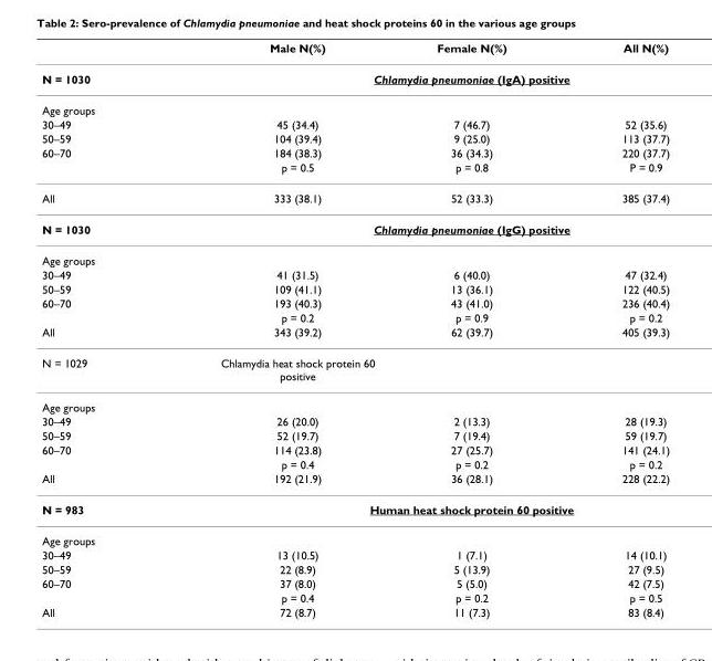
<table><thead><tr><td></td><td>Male N(%)</td><td>Female N(%)</td><td>All N(%)</td></tr></thead><tbody><tr><td>N = 1030</td><td colspan="3">Chlamydia pneumoniae (IgA) positive</td></tr><tr><td colspan="4">Age groups</td></tr><tr><td>30–49</td><td>45 (34.4)</td><td>7 (46.7)</td><td>52 (35.6)</td></tr><tr><td>50–59</td><td>104 (39.4)</td><td>9 (25.0)</td><td>113 (37.7)</td></tr><tr><td rowspan="2">60–70</td><td>184 (38.3)</td><td>36 (34.3)</td><td>220 (37.7)</td></tr><tr><td>p = 0.5</td><td>p = 0.8</td><td>P = 0.9</td></tr><tr><td>All</td><td>333 (38.1)</td><td>52 (33.3)</td><td>385 (37.4)</td></tr><tr><td>N = 1030</td><td colspan="3">Chlamydia pneumoniae (IgG) positive</td></tr><tr><td colspan="4">Age groups</td></tr><tr><td>30–49</td><td>41 (31.5)</td><td>6 (40.0)</td><td>47 (32.4)</td></tr><tr><td>50–59</td><td>109 (41.1)</td><td>13 (36.1)</td><td>122 (40.5)</td></tr><tr><td rowspan="2">60–70</td><td>193 (40.3)</td><td>43 (41.0)</td><td>236 (40.4)</td></tr><tr><td>p = 0.2</td><td>p = 0.9</td><td>p = 0.2</td></tr><tr><td>All</td><td>343 (39.2)</td><td>62 (39.7)</td><td>405 (39.3)</td></tr><tr><td>N = 1029</td><td>Chlamydia heat shock protein 60 positive</td><td></td><td></td></tr><tr><td colspan="4">Age groups</td></tr><tr><td>30–49</td><td>26 (20.0)</td><td>2 (13.3)</td><td>28 (19.3)</td></tr><tr><td>50–59</td><td>52 (19.7)</td><td>7 (19.4)</td><td>59 (19.7)</td></tr><tr><td rowspan="2">60–70</td><td>114 (23.8)</td><td>27 (25.7)</td><td>141 (24.1)</td></tr><tr><td>p = 0.4</td><td>p = 0.2</td><td>p = 0.2</td></tr><tr><td>All</td><td>192 (21.9)</td><td>36 (28.1)</td><td>228 (22.2)</td></tr><tr><td>N = 983</td><td colspan="3">Human heat shock protein 60 positive</td></tr><tr><td colspan="4">Age groups</td></tr><tr><td>30–49</td><td>13 (10.5)</td><td>1 (7.1)</td><td>14 (10.1)</td></tr><tr><td>50–59</td><td>22 (8.9)</td><td>5 (13.9)</td><td>27 (9.5)</td></tr><tr><td rowspan="2">60–70</td><td>37 (8.0)</td><td>5 (5.0)</td><td>42 (7.5)</td></tr><tr><td>p = 0.4</td><td>p = 0.2</td><td>p = 0.5</td></tr><tr><td>All</td><td>72 (8.7)</td><td>11 (7.3)</td><td>83 (8.4)</td></tr></tbody></table>